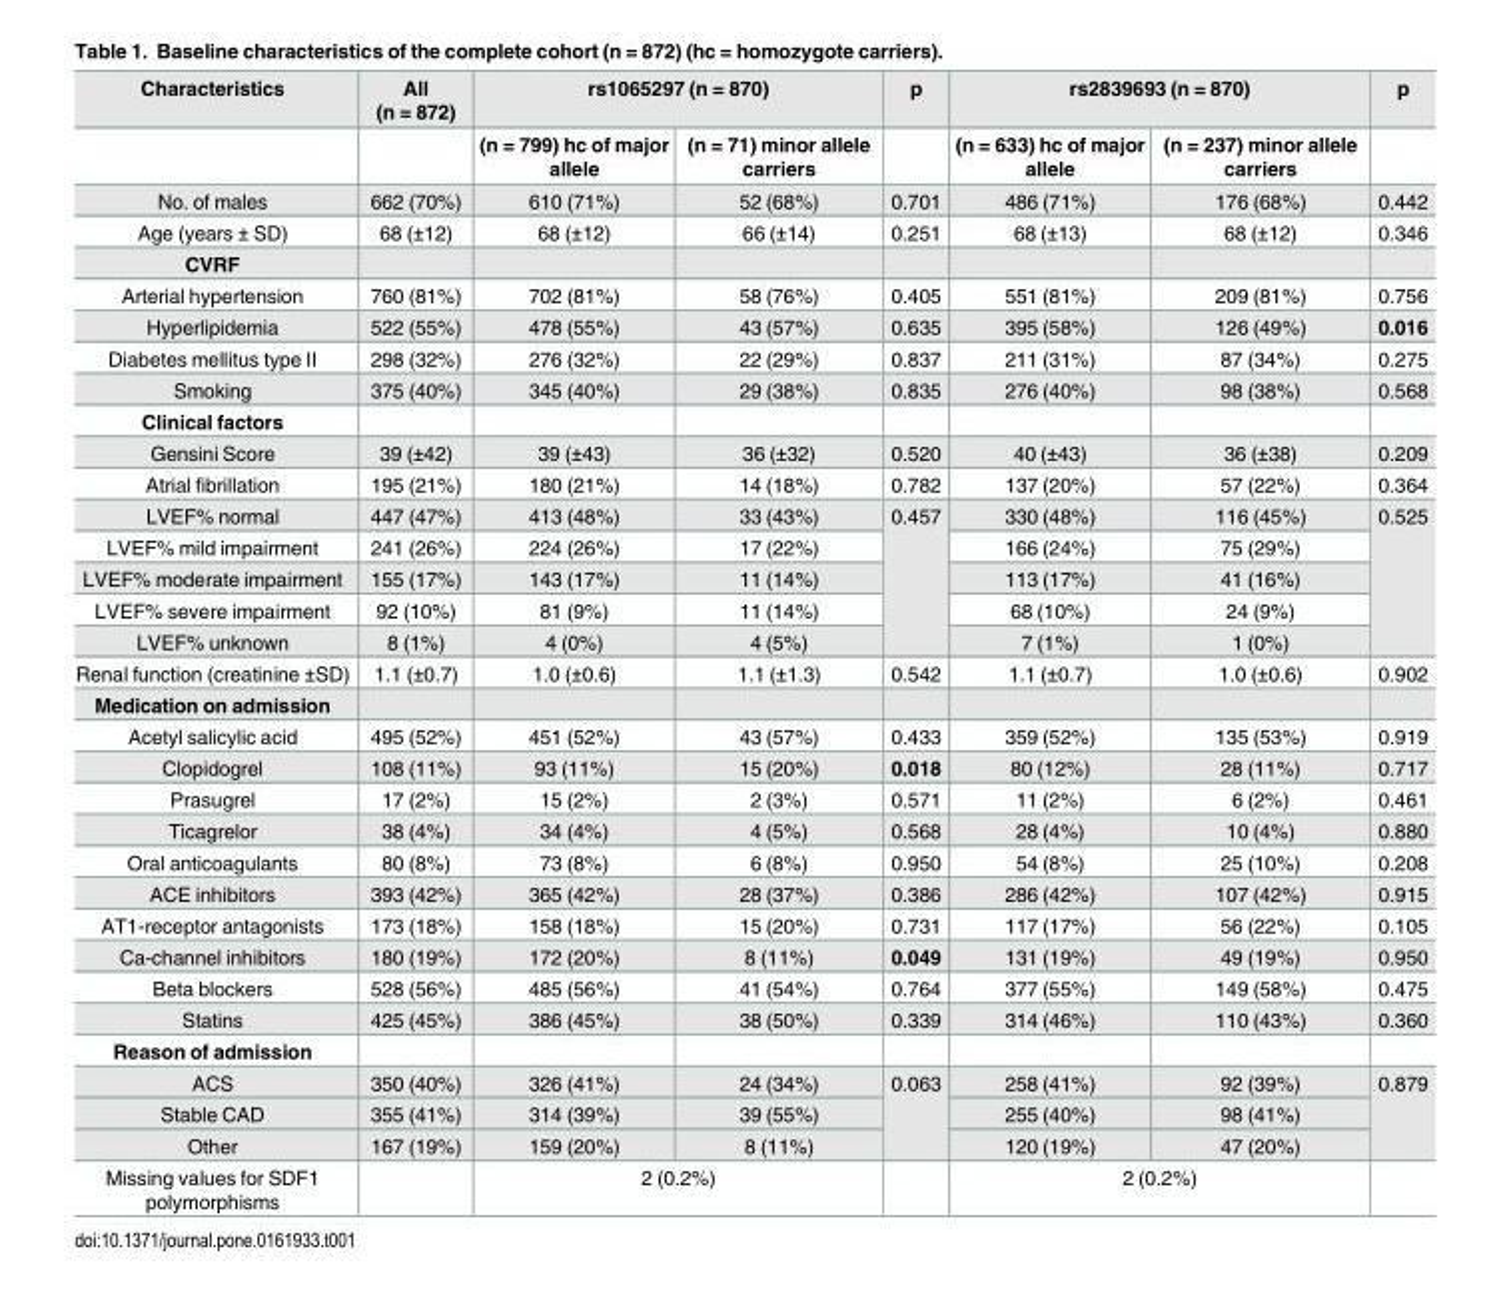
<table><thead><tr><td rowspan="2">Characteristics</td><td rowspan="2">All (n = 872)</td><td colspan="2">rs1065297 (n = 870)</td><td rowspan="2">p</td><td colspan="2">rs2839693 (n = 870)</td><td rowspan="2">p</td></tr><tr><td>(n = 799) hc of major allele</td><td>(n = 71) minor allele carriers</td><td>(n = 633) hc of major allele</td><td>(n = 237) minor allele carriers</td></tr></thead><tbody><tr><td>No. of males</td><td>662 (70%)</td><td>610 (71%)</td><td>52 (68%)</td><td>0.701</td><td>486 (71%)</td><td>176 (68%)</td><td>0.442</td></tr><tr><td>Age (years ± SD)</td><td>68 (±12)</td><td>68 (±12)</td><td>66 (±14)</td><td>0.251</td><td>68 (±13)</td><td>68 (±12)</td><td>0.346</td></tr><tr><td colspan="8">CVRF</td></tr><tr><td>Arterial hypertension</td><td>760 (81%)</td><td>702 (81%)</td><td>58 (76%)</td><td>0.405</td><td>551 (81%)</td><td>209 (81%)</td><td>0.756</td></tr><tr><td>Hyperlipidemia</td><td>522 (55%)</td><td>478 (55%)</td><td>43 (57%)</td><td>0.635</td><td>395 (58%)</td><td>126 (49%)</td><td>0.016</td></tr><tr><td>Diabetes mellitus type II</td><td>298 (32%)</td><td>276 (32%)</td><td>22 (29%)</td><td>0.837</td><td>211 (31%)</td><td>87 (34%)</td><td>0.275</td></tr><tr><td>Smoking</td><td>375 (40%)</td><td>345 (40%)</td><td>29 (38%)</td><td>0.835</td><td>276 (40%)</td><td>98 (38%)</td><td>0.568</td></tr><tr><td colspan="8">Clinical factors</td></tr><tr><td>Gensini Score</td><td>39 (±42)</td><td>39 (±43)</td><td>36 (±32)</td><td>0.520</td><td>40 (±43)</td><td>36 (±38)</td><td>0.209</td></tr><tr><td>Atrial fibrillation</td><td>195 (21%)</td><td>180 (21%)</td><td>14 (18%)</td><td>0.782</td><td>137 (20%)</td><td>57 (22%)</td><td>0.364</td></tr><tr><td>LVEF% normal</td><td>447 (47%)</td><td>413 (48%)</td><td>33 (43%)</td><td rowspan="5">0.457</td><td>330 (48%)</td><td>116 (45%)</td><td rowspan="5">0.525</td></tr><tr><td>LVEF% mild impairment</td><td>241 (26%)</td><td>224 (26%)</td><td>17 (22%)</td><td>166 (24%)</td><td>75 (29%)</td></tr><tr><td>LVEF% moderate impairment</td><td>155 (17%)</td><td>143 (17%)</td><td>11 (14%)</td><td>113 (17%)</td><td>41 (16%)</td></tr><tr><td>LVEF% severe impairment</td><td>92 (10%)</td><td>81 (9%)</td><td>11 (14%)</td><td>68 (10%)</td><td>24 (9%)</td></tr><tr><td>LVEF% unknown</td><td>8 (1%)</td><td>4 (0%)</td><td>4 (5%)</td><td>7 (1%)</td><td>1 (0%)</td></tr><tr><td>Renal function (creatinine ±SD)</td><td>1.1 (±0.7)</td><td>1.0 (±0.6)</td><td>1.1 (±1.3)</td><td>0.542</td><td>1.1 (±0.7)</td><td>1.0 (±0.6)</td><td>0.902</td></tr><tr><td colspan="8">Medication on admission</td></tr><tr><td>Acetyl salicylic acid</td><td>495 (52%)</td><td>451 (52%)</td><td>43 (57%)</td><td>0.433</td><td>359 (52%)</td><td>135 (53%)</td><td>0.919</td></tr><tr><td>Clopidogrel</td><td>108 (11%)</td><td>93 (11%)</td><td>15 (20%)</td><td>0.018</td><td>80 (12%)</td><td>28 (11%)</td><td>0.717</td></tr><tr><td>Prasugrel</td><td>17 (2%)</td><td>15 (2%)</td><td>2 (3%)</td><td>0.571</td><td>11 (2%)</td><td>6 (2%)</td><td>0.461</td></tr><tr><td>Ticagrelor</td><td>38 (4%)</td><td>34 (4%)</td><td>4 (5%)</td><td>0.568</td><td>28 (4%)</td><td>10 (4%)</td><td>0.880</td></tr><tr><td>Oral anticoagulants</td><td>80 (8%)</td><td>73 (8%)</td><td>6 (8%)</td><td>0.950</td><td>54 (8%)</td><td>25 (10%)</td><td>0.208</td></tr><tr><td>ACE inhibitors</td><td>393 (42%)</td><td>365 (42%)</td><td>28 (37%)</td><td>0.386</td><td>286 (42%)</td><td>107 (42%)</td><td>0.915</td></tr><tr><td>AT1-receptor antagonists</td><td>173 (18%)</td><td>158 (18%)</td><td>15 (20%)</td><td>0.731</td><td>117 (17%)</td><td>56 (22%)</td><td>0.105</td></tr><tr><td>Ca-channel inhibitors</td><td>180 (19%)</td><td>172 (20%)</td><td>8 (11%)</td><td>0.049</td><td>131 (19%)</td><td>49 (19%)</td><td>0.950</td></tr><tr><td>Beta blockers</td><td>528 (56%)</td><td>485 (56%)</td><td>41 (54%)</td><td>0.764</td><td>377 (55%)</td><td>149 (58%)</td><td>0.475</td></tr><tr><td>Statins</td><td>425 (45%)</td><td>386 (45%)</td><td>38 (50%)</td><td>0.339</td><td>314 (46%)</td><td>110 (43%)</td><td>0.360</td></tr><tr><td colspan="8">Reason of admission</td></tr><tr><td>ACS</td><td>350 (40%)</td><td>326 (41%)</td><td>24 (34%)</td><td rowspan="3">0.063</td><td>258 (41%)</td><td>92 (39%)</td><td rowspan="3">0.879</td></tr><tr><td>Stable CAD</td><td>355 (41%)</td><td>314 (39%)</td><td>39 (55%)</td><td>255 (40%)</td><td>98 (41%)</td></tr><tr><td>Other</td><td>167 (19%)</td><td>159 (20%)</td><td>8 (11%)</td><td>120 (19%)</td><td>47 (20%)</td></tr><tr><td>Missing values for SDF1 polymorphisms</td><td></td><td colspan="2">2 (0.2%)</td><td></td><td colspan="2">2 (0.2%)</td><td></td></tr></tbody></table>